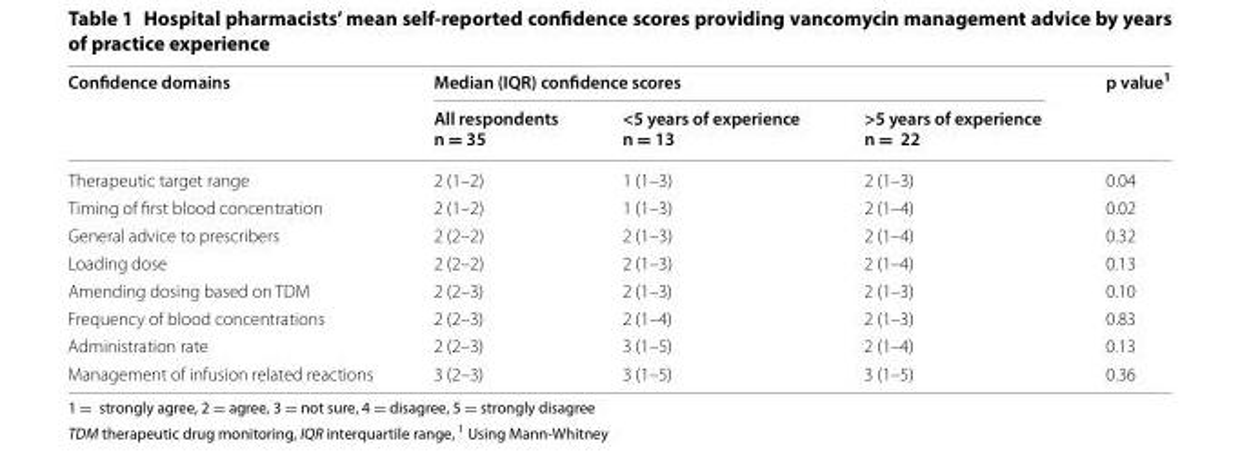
<table><thead><tr><td rowspan="2">Confidence domains</td><td colspan="3">Median (IQR) confidence scores</td><td rowspan="2">p value<sup>1</sup></td></tr><tr><td>All respondents n = 35</td><td>&lt;5 years of experience n = 13</td><td>&gt;5 years of experience n = 22</td></tr></thead><tbody><tr><td>Therapeutic target range</td><td>2 (1–2)</td><td>1 (1–3)</td><td>2 (1–3)</td><td>0.04</td></tr><tr><td>Timing of first blood concentration</td><td>2 (1–2)</td><td>1 (1–3)</td><td>2 (1–4)</td><td>0.02</td></tr><tr><td>General advice to prescribers</td><td>2 (2–2)</td><td>2 (1–3)</td><td>2 (1–4)</td><td>0.32</td></tr><tr><td>Loading dose</td><td>2 (2–2)</td><td>2 (1–3)</td><td>2 (1–4)</td><td>0.13</td></tr><tr><td>Amending dosing based on TDM</td><td>2 (2–3)</td><td>2 (1–3)</td><td>2 (1–3)</td><td>0.10</td></tr><tr><td>Frequency of blood concentrations</td><td>2 (2–3)</td><td>2 (1–4)</td><td>2 (1–3)</td><td>0.83</td></tr><tr><td>Administration rate</td><td>2 (2–3)</td><td>3 (1–5)</td><td>2 (1–4)</td><td>0.13</td></tr><tr><td>Management of infusion related reactions</td><td>3 (2–3)</td><td>3 (1–5)</td><td>3 (1–5)</td><td>0.36</td></tr></tbody></table>